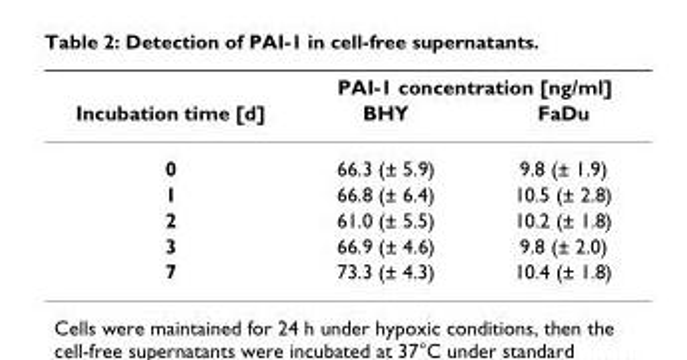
<table><thead><tr><td rowspan="2">Incubation time [d]</td><td colspan="2">PAI-1 concentration [ng/ml]</td></tr><tr><td>BHY</td><td>FaDu</td></tr></thead><tbody><tr><td>0</td><td>66.3 (± 5.9)</td><td>9.8 (± 1.9)</td></tr><tr><td>1</td><td>66.8 (± 6.4)</td><td>10.5 (± 2.8)</td></tr><tr><td>2</td><td>61.0 (± 5.5)</td><td>10.2 (± 1.8)</td></tr><tr><td>3</td><td>66.9 (± 4.6)</td><td>9.8 (± 2.0)</td></tr><tr><td>7</td><td>73.3 (± 4.3)</td><td>10.4 (± 1.8)</td></tr></tbody></table>